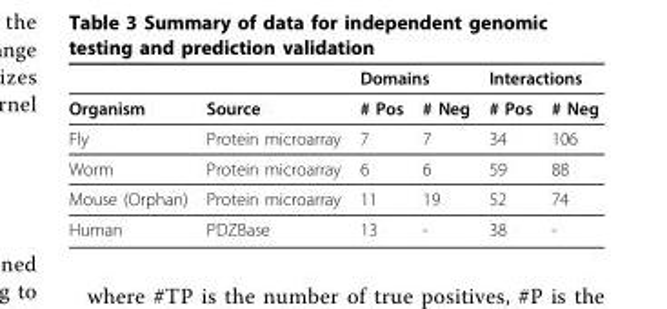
<table><thead><tr><td rowspan="2">Organism</td><td rowspan="2">Source</td><td colspan="2">Domains</td><td colspan="2">Interactions</td></tr><tr><td># Pos</td><td># Neg</td><td># Pos</td><td># Neg</td></tr></thead><tbody><tr><td>Fly</td><td>Protein microarray</td><td>7</td><td>7</td><td>34</td><td>106</td></tr><tr><td>Worm</td><td>Protein microarray</td><td>6</td><td>6</td><td>59</td><td>88</td></tr><tr><td>Mouse (Orphan)</td><td>Protein microarray</td><td>11</td><td>19</td><td>52</td><td>74</td></tr><tr><td>Human</td><td>PDZBase</td><td>13</td><td>-</td><td>38</td><td>-</td></tr></tbody></table>